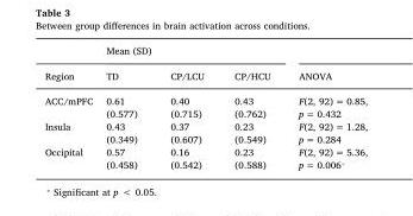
<table><thead><tr><td rowspan="2">Region</td><td colspan="3">Mean (SD)</td><td rowspan="2">ANOVA</td></tr><tr><td>TD</td><td>CP/LCU</td><td>CP/HCU</td></tr></thead><tbody><tr><td>ACC/mPFC</td><td>0.61 (0.577)</td><td>0.40 (0.715)</td><td>0.43 (0.762)</td><td>F(2, 92) = 0.85, p = 0.432</td></tr><tr><td>Insula</td><td>0.43 (0.349)</td><td>0.37 (0.607)</td><td>0.23 (0.549)</td><td>F(2, 92) = 1.28, p = 0.284</td></tr><tr><td>Occipital</td><td>0.57 (0.458)</td><td>0.16 (0.542)</td><td>0.23 (0.588)</td><td>F(2, 92) = 5.36, p = 0.006⁎</td></tr></tbody></table>